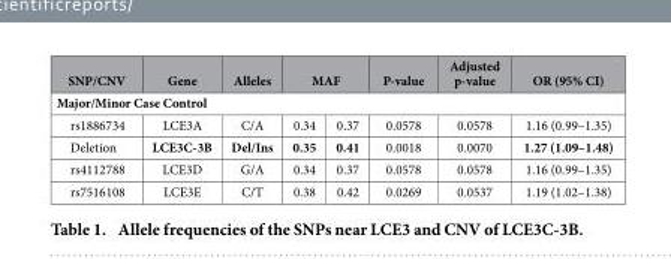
<table><thead><tr><td>SNP/CNV</td><td>Gene</td><td>Alleles</td><td colspan="2">MAF</td><td>P-value</td><td>Adjusted p-value</td><td>OR (95% CI)</td></tr><tr><td colspan="8">Major/Minor Case Control</td></tr><tr><td>rs1886734</td><td>LCE3A</td><td>C/A</td><td>0.34</td><td>0.37</td><td>0.0578</td><td>0.0578</td><td>1.16 (0.99–1.35)</td></tr></thead><tbody><tr><td>Deletion</td><td>LCE3C-3B</td><td>Del/Ins</td><td>0.35</td><td>0.41</td><td>0.0018</td><td>0.0070</td><td>1.27 (1.09–1.48)</td></tr><tr><td>rs4112788</td><td>LCE3D</td><td>G/A</td><td>0.34</td><td>0.37</td><td>0.0578</td><td>0.0578</td><td>1.16 (0.99–1.35)</td></tr><tr><td>rs7516108</td><td>LCE3E</td><td>C/T</td><td>0.38</td><td>0.42</td><td>0.0269</td><td>0.0537</td><td>1.19 (1.02–1.38)</td></tr></tbody></table>